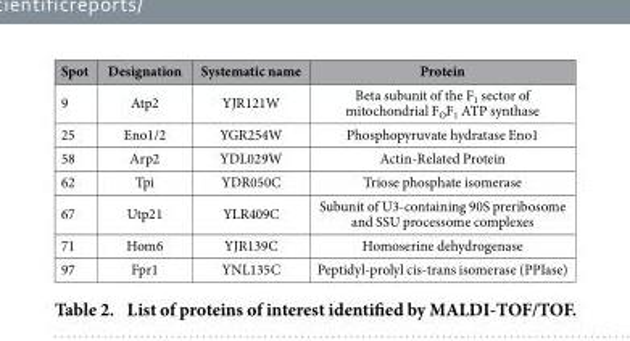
<table><thead><tr><td>Spot</td><td>Designation</td><td>Systematic name</td><td>Protein</td></tr></thead><tbody><tr><td>9</td><td>Atp2</td><td>YJR121W</td><td>Beta subunit of the F<sub>1</sub> sector of mitochondrial F<sub>O</sub>F<sub>1</sub> ATP synthase</td></tr><tr><td>25</td><td>Eno1/2</td><td>YGR254W</td><td>Phosphopyruvate hydratase Eno1</td></tr><tr><td>58</td><td>Arp2</td><td>YDL029W</td><td>Actin-Related Protein</td></tr><tr><td>62</td><td>Tpi</td><td>YDR050C</td><td>Triose phosphate isomerase</td></tr><tr><td>67</td><td>Utp21</td><td>YLR409C</td><td>Subunit of U3-containing 90S preribosome and SSU processome complexes</td></tr><tr><td>71</td><td>Hom6</td><td>YJR139C</td><td>Homoserine dehydrogenase</td></tr><tr><td>97</td><td>Fpr1</td><td>YNL135C</td><td>Peptidyl-prolyl cis-trans isomerase (PPIase)</td></tr></tbody></table>